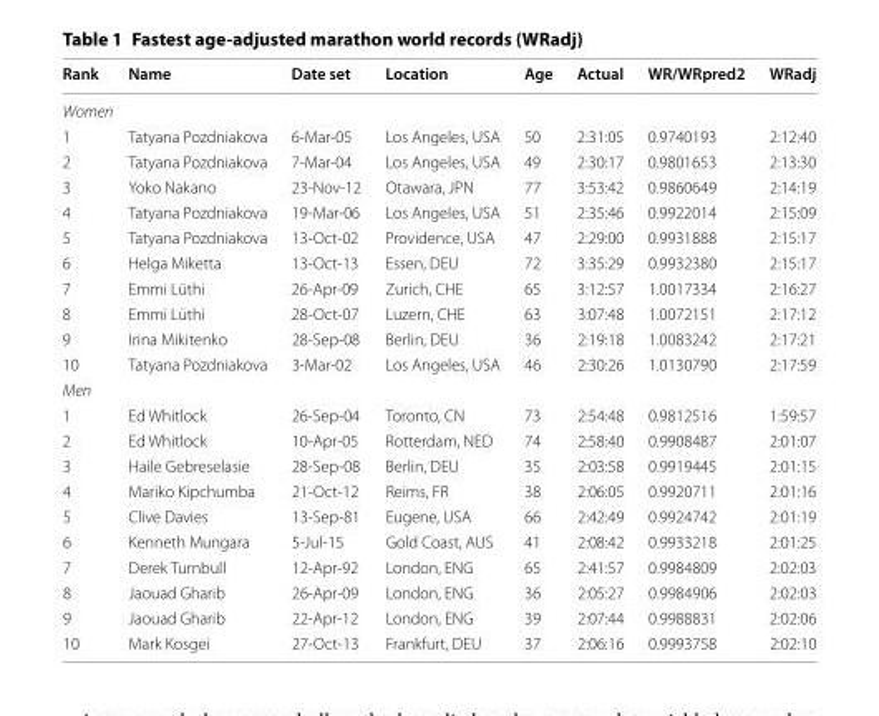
<table><thead><tr><td>Rank</td><td>Name</td><td>Date set</td><td>Location</td><td>Age</td><td>Actual</td><td>WR/WRpred2</td><td>WRadj</td></tr></thead><tbody><tr><td colspan="8">Women</td></tr><tr><td>1</td><td>Tatyana Pozdniakova</td><td>6-Mar-05</td><td>Los Angeles, USA</td><td>50</td><td>2:31:05</td><td>0.9740193</td><td>2:12:40</td></tr><tr><td>2</td><td>Tatyana Pozdniakova</td><td>7-Mar-04</td><td>Los Angeles, USA</td><td>49</td><td>2:30:17</td><td>0.9801653</td><td>2:13:30</td></tr><tr><td>3</td><td>Yoko Nakano</td><td>23-Nov-12</td><td>Otawara, JPN</td><td>77</td><td>3:53:42</td><td>0.9860649</td><td>2:14:19</td></tr><tr><td>4</td><td>Tatyana Pozdniakova</td><td>19-Mar-06</td><td>Los Angeles, USA</td><td>51</td><td>2:35:46</td><td>0.9922014</td><td>2:15:09</td></tr><tr><td>5</td><td>Tatyana Pozdniakova</td><td>13-Oct-02</td><td>Providence, USA</td><td>47</td><td>2:29:00</td><td>0.9931888</td><td>2:15:17</td></tr><tr><td>6</td><td>Helga Miketta</td><td>13-Oct-13</td><td>Essen, DEU</td><td>72</td><td>3:35:29</td><td>0.9932380</td><td>2:15:17</td></tr><tr><td>7</td><td>Emmi Lüthi</td><td>26-Apr-09</td><td>Zurich, CHE</td><td>65</td><td>3:12:57</td><td>1.0017334</td><td>2:16:27</td></tr><tr><td>8</td><td>Emmi Lüthi</td><td>28-Oct-07</td><td>Luzern, CHE</td><td>63</td><td>3:07:48</td><td>1.0072151</td><td>2:17:12</td></tr><tr><td>9</td><td>Irina Mikitenko</td><td>28-Sep-08</td><td>Berlin, DEU</td><td>36</td><td>2:19:18</td><td>1.0083242</td><td>2:17:21</td></tr><tr><td>10</td><td>Tatyana Pozdniakova</td><td>3-Mar-02</td><td>Los Angeles, USA</td><td>46</td><td>2:30:26</td><td>1.0130790</td><td>2:17:59</td></tr><tr><td colspan="8">Men</td></tr><tr><td>1</td><td>Ed Whitlock</td><td>26-Sep-04</td><td>Toronto, CN</td><td>73</td><td>2:54:48</td><td>0.9812516</td><td>1:59:57</td></tr><tr><td>2</td><td>Ed Whitlock</td><td>10-Apr-05</td><td>Rotterdam, NED</td><td>74</td><td>2:58:40</td><td>0.9908487</td><td>2:01:07</td></tr><tr><td>3</td><td>Haile Gebreselasie</td><td>28-Sep-08</td><td>Berlin, DEU</td><td>35</td><td>2:03:58</td><td>0.9919445</td><td>2:01:15</td></tr><tr><td>4</td><td>Mariko Kipchumba</td><td>21-Oct-12</td><td>Reims, FR</td><td>38</td><td>2:06:05</td><td>0.9920711</td><td>2:01:16</td></tr><tr><td>5</td><td>Clive Davies</td><td>13-Sep-81</td><td>Eugene, USA</td><td>66</td><td>2:42:49</td><td>0.9924742</td><td>2:01:19</td></tr><tr><td>6</td><td>Kenneth Mungara</td><td>5-Jul-15</td><td>Gold Coast, AUS</td><td>41</td><td>2:08:42</td><td>0.9933218</td><td>2:01:25</td></tr><tr><td>7</td><td>Derek Turnbull</td><td>12-Apr-92</td><td>London, ENG</td><td>65</td><td>2:41:57</td><td>0.9984809</td><td>2:02:03</td></tr><tr><td>8</td><td>Jaouad Gharib</td><td>26-Apr-09</td><td>London, ENG</td><td>36</td><td>2:05:27</td><td>0.9984906</td><td>2:02:03</td></tr><tr><td>9</td><td>Jaouad Gharib</td><td>22-Apr-12</td><td>London, ENG</td><td>39</td><td>2:07:44</td><td>0.9988831</td><td>2:02:06</td></tr><tr><td>10</td><td>Mark Kosgei</td><td>27-Oct-13</td><td>Frankfurt, DEU</td><td>37</td><td>2:06:16</td><td>0.9993758</td><td>2:02:10</td></tr></tbody></table>